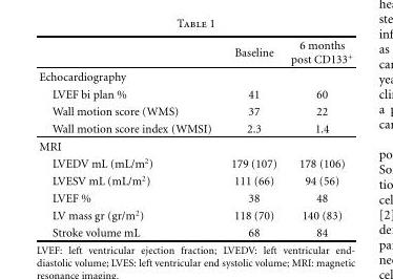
<table><thead><tr><td></td><td>Baseline</td><td>6 months post CD133<sup>+</sup></td></tr></thead><tbody><tr><td colspan="3">Echocardiography</td></tr><tr><td>LVEF bi plan %</td><td>41</td><td>60</td></tr><tr><td>Wall motion score (WMS)</td><td>37</td><td>22</td></tr><tr><td>Wall motion score index (WMSI)</td><td>2.3</td><td>1.4</td></tr><tr><td colspan="3">MRI</td></tr><tr><td>LVEDV mL (mL/m<sup>2</sup>)</td><td>179 (107)</td><td>178 (106)</td></tr><tr><td>LVESV mL (mL/m<sup>2</sup>)</td><td>111 (66)</td><td>94 (56)</td></tr><tr><td>LVEF %</td><td>38</td><td>48</td></tr><tr><td>LV mass gr (gr/m<sup>2</sup>)</td><td>118 (70)</td><td>140 (83)</td></tr><tr><td>Stroke volume mL</td><td>68</td><td>84</td></tr></tbody></table>